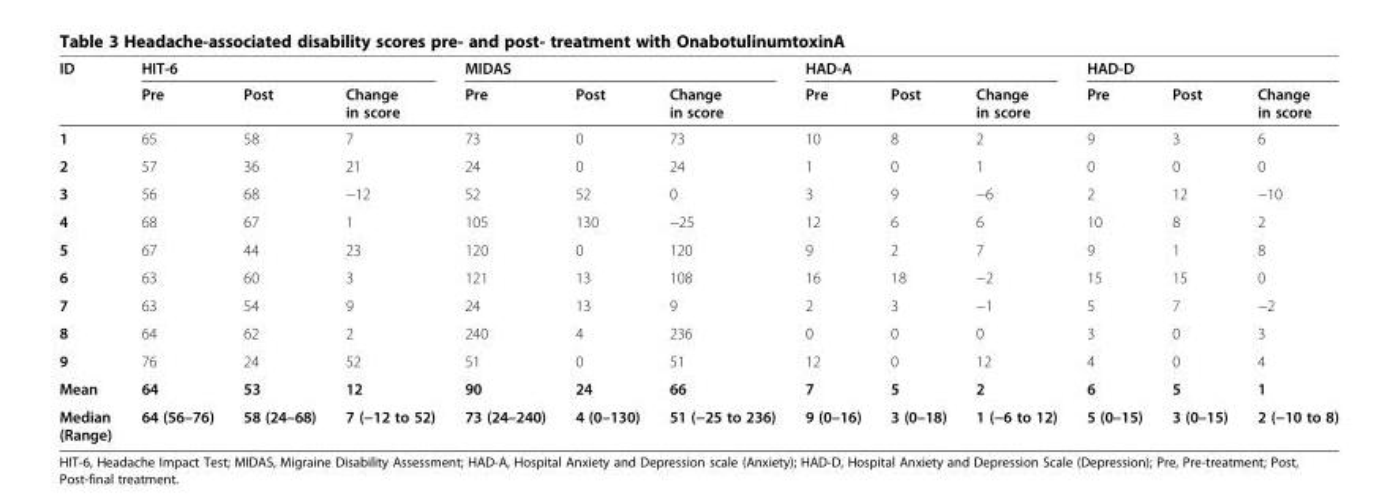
<table><thead><tr><td rowspan="2">ID</td><td colspan="3">HIT-6</td><td colspan="3">MIDAS</td><td colspan="3">HAD-A</td><td colspan="3">HAD-D</td></tr><tr><td>Pre</td><td>Post</td><td>Change in score</td><td>Pre</td><td>Post</td><td>Change in score</td><td>Pre</td><td>Post</td><td>Change in score</td><td>Pre</td><td>Post</td><td>Change in score</td></tr></thead><tbody><tr><td>1</td><td>65</td><td>58</td><td>7</td><td>73</td><td>0</td><td>73</td><td>10</td><td>8</td><td>2</td><td>9</td><td>3</td><td>6</td></tr><tr><td>2</td><td>57</td><td>36</td><td>21</td><td>24</td><td>0</td><td>24</td><td>1</td><td>0</td><td>1</td><td>0</td><td>0</td><td>0</td></tr><tr><td>3</td><td>56</td><td>68</td><td>−12</td><td>52</td><td>52</td><td>0</td><td>3</td><td>9</td><td>−6</td><td>2</td><td>12</td><td>−10</td></tr><tr><td>4</td><td>68</td><td>67</td><td>1</td><td>105</td><td>130</td><td>−25</td><td>12</td><td>6</td><td>6</td><td>10</td><td>8</td><td>2</td></tr><tr><td>5</td><td>67</td><td>44</td><td>23</td><td>120</td><td>0</td><td>120</td><td>9</td><td>2</td><td>7</td><td>9</td><td>1</td><td>8</td></tr><tr><td>6</td><td>63</td><td>60</td><td>3</td><td>121</td><td>13</td><td>108</td><td>16</td><td>18</td><td>−2</td><td>15</td><td>15</td><td>0</td></tr><tr><td>7</td><td>63</td><td>54</td><td>9</td><td>24</td><td>13</td><td>9</td><td>2</td><td>3</td><td>−1</td><td>5</td><td>7</td><td>−2</td></tr><tr><td>8</td><td>64</td><td>62</td><td>2</td><td>240</td><td>4</td><td>236</td><td>0</td><td>0</td><td>0</td><td>3</td><td>0</td><td>3</td></tr><tr><td>9</td><td>76</td><td>24</td><td>52</td><td>51</td><td>0</td><td>51</td><td>12</td><td>0</td><td>12</td><td>4</td><td>0</td><td>4</td></tr><tr><td>Mean</td><td>64</td><td>53</td><td>12</td><td>90</td><td>24</td><td>66</td><td>7</td><td>5</td><td>2</td><td>6</td><td>5</td><td>1</td></tr><tr><td>Median (Range)</td><td>64 (56–76)</td><td>58 (24–68)</td><td>7 (−12 to 52)</td><td>73 (24–240)</td><td>4 (0–130)</td><td>51 (−25 to 236)</td><td>9 (0–16)</td><td>3 (0–18)</td><td>1 (−6 to 12)</td><td>5 (0–15)</td><td>3 (0–15)</td><td>2 (−10 to 8)</td></tr></tbody></table>